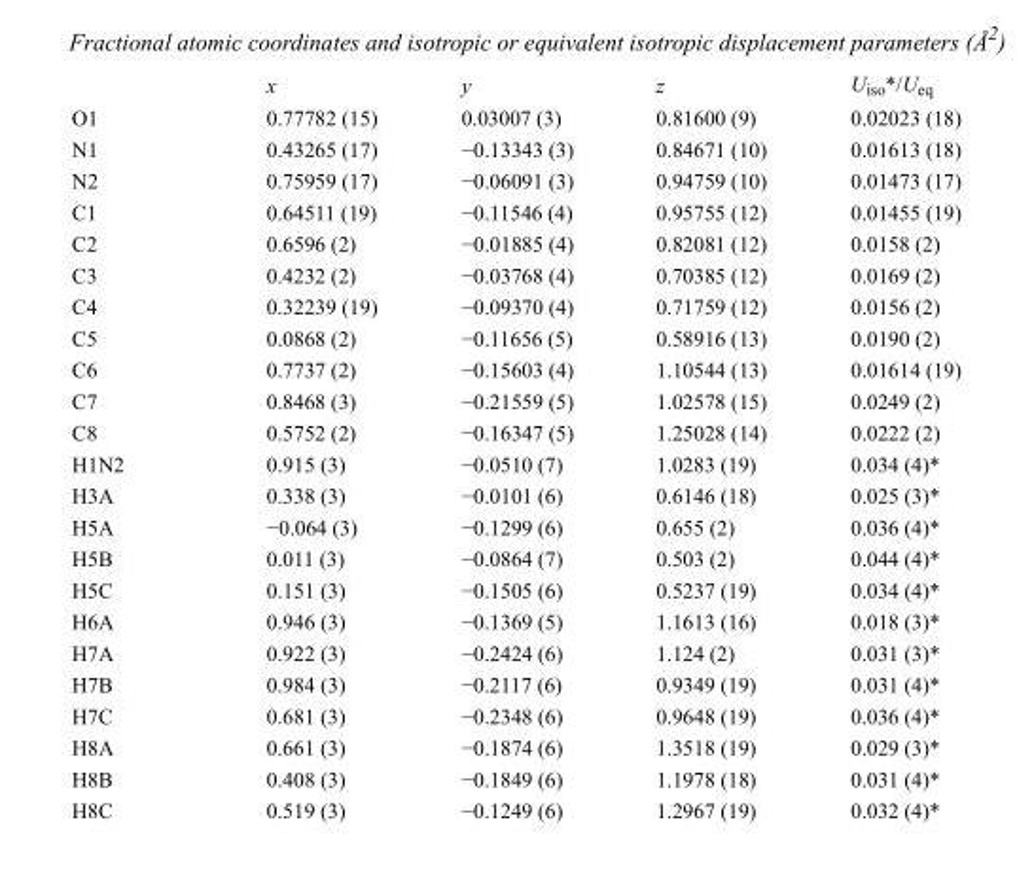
<table><thead><tr><td></td><td>x</td><td>y</td><td>z</td><td>U<sub>iso</sub>*/U<sub>eq</sub></td></tr></thead><tbody><tr><td>O1</td><td>0.77782 (15)</td><td>0.03007 (3)</td><td>0.81600 (9)</td><td>0.02023 (18)</td></tr><tr><td>N1</td><td>0.43265 (17)</td><td>−0.13343 (3)</td><td>0.84671 (10)</td><td>0.01613 (18)</td></tr><tr><td>N2</td><td>0.75959 (17)</td><td>−0.06091 (3)</td><td>0.94759 (10)</td><td>0.01473 (17)</td></tr><tr><td>C1</td><td>0.64511 (19)</td><td>−0.11546 (4)</td><td>0.95755 (12)</td><td>0.01455 (19)</td></tr><tr><td>C2</td><td>0.6596 (2)</td><td>−0.01885 (4)</td><td>0.82081 (12)</td><td>0.0158 (2)</td></tr><tr><td>C3</td><td>0.4232 (2)</td><td>−0.03768 (4)</td><td>0.70385 (12)</td><td>0.0169 (2)</td></tr><tr><td>C4</td><td>0.32239 (19)</td><td>−0.09370 (4)</td><td>0.71759 (12)</td><td>0.0156 (2)</td></tr><tr><td>C5</td><td>0.0868 (2)</td><td>−0.11656 (5)</td><td>0.58916 (13)</td><td>0.0190 (2)</td></tr><tr><td>C6</td><td>0.7737 (2)</td><td>−0.15603 (4)</td><td>1.10544 (13)</td><td>0.01614 (19)</td></tr><tr><td>C7</td><td>0.8468 (3)</td><td>−0.21559 (5)</td><td>1.02578 (15)</td><td>0.0249 (2)</td></tr><tr><td>C8</td><td>0.5752 (2)</td><td>−0.16347 (5)</td><td>1.25028 (14)</td><td>0.0222 (2)</td></tr><tr><td>H1N2</td><td>0.915 (3)</td><td>−0.0510 (7)</td><td>1.0283 (19)</td><td>0.034 (4)*</td></tr><tr><td>H3A</td><td>0.338 (3)</td><td>−0.0101 (6)</td><td>0.6146 (18)</td><td>0.025 (3)*</td></tr><tr><td>H5A</td><td>−0.064 (3)</td><td>−0.1299 (6)</td><td>0.655 (2)</td><td>0.036 (4)*</td></tr><tr><td>H5B</td><td>0.011 (3)</td><td>−0.0864 (7)</td><td>0.503 (2)</td><td>0.044 (4)*</td></tr><tr><td>H5C</td><td>0.151 (3)</td><td>−0.1505 (6)</td><td>0.5237 (19)</td><td>0.034 (4)*</td></tr><tr><td>H6A</td><td>0.946 (3)</td><td>−0.1369 (5)</td><td>1.1613 (16)</td><td>0.018 (3)*</td></tr><tr><td>H7A</td><td>0.922 (3)</td><td>−0.2424 (6)</td><td>1.124 (2)</td><td>0.031 (3)*</td></tr><tr><td>H7B</td><td>0.984 (3)</td><td>−0.2117 (6)</td><td>0.9349 (19)</td><td>0.031 (4)*</td></tr><tr><td>H7C</td><td>0.681 (3)</td><td>−0.2348 (6)</td><td>0.9648 (19)</td><td>0.036 (4)*</td></tr><tr><td>H8A</td><td>0.661 (3)</td><td>−0.1874 (6)</td><td>1.3518 (19)</td><td>0.029 (3)*</td></tr><tr><td>H8B</td><td>0.408 (3)</td><td>−0.1849 (6)</td><td>1.1978 (18)</td><td>0.031 (4)*</td></tr><tr><td>H8C</td><td>0.519 (3)</td><td>−0.1249 (6)</td><td>1.2967 (19)</td><td>0.032 (4)*</td></tr></tbody></table>